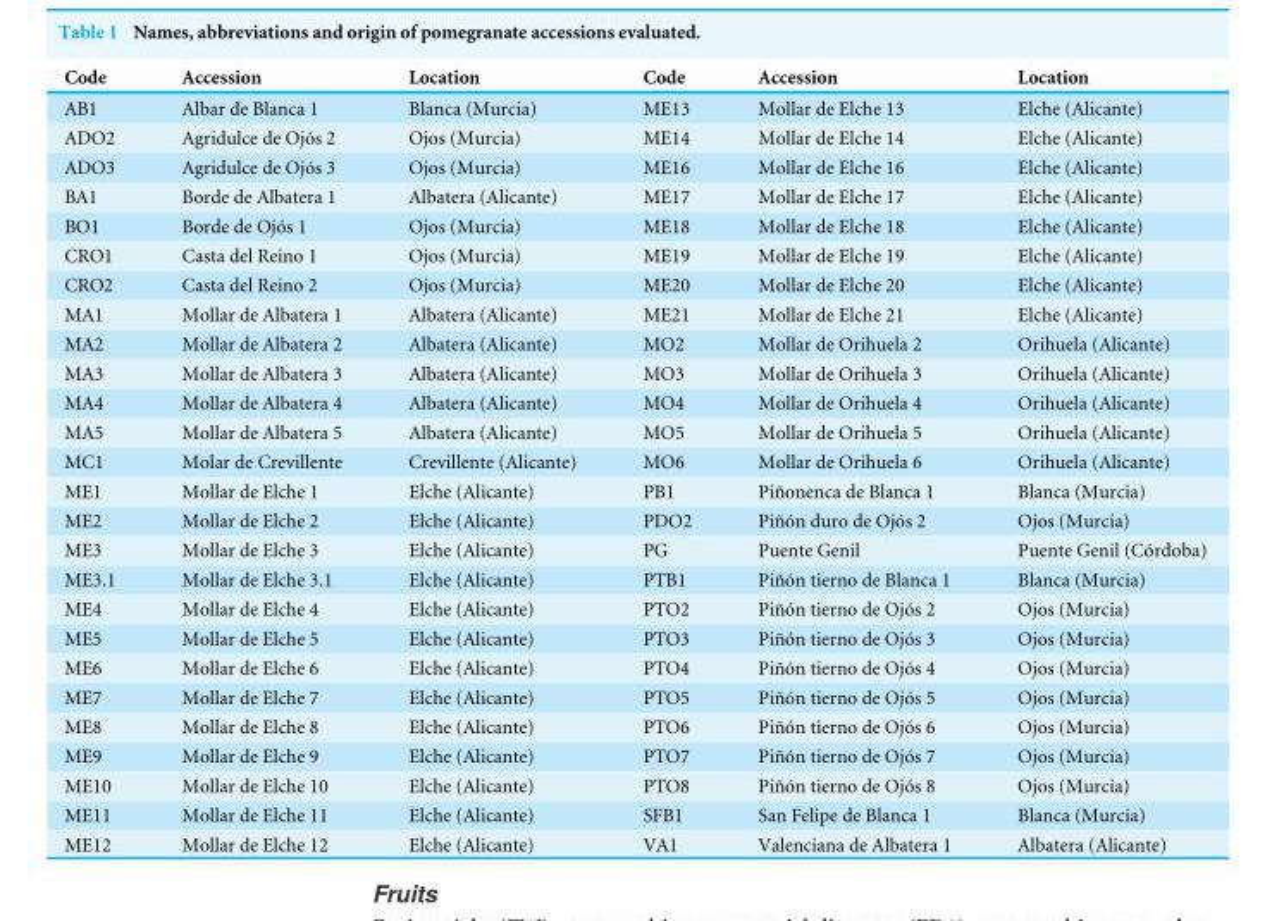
<table><thead><tr><td>Code</td><td>Accession</td><td>Location</td><td>Code</td><td>Accession</td><td>Location</td></tr></thead><tbody><tr><td>AB1</td><td>Albar de Blanca 1</td><td>Blanca (Murcia)</td><td>ME13</td><td>Mollar de Elche 13</td><td>Elche (Alicante)</td></tr><tr><td>ADO2</td><td>Agridulce de Ojós 2</td><td>Ojos (Murcia)</td><td>ME14</td><td>Mollar de Elche 14</td><td>Elche (Alicante)</td></tr><tr><td>ADO3</td><td>Agridulce de Ojós 3</td><td>Ojos (Murcia)</td><td>ME16</td><td>Mollar de Elche 16</td><td>Elche (Alicante)</td></tr><tr><td>BA1</td><td>Borde de Albatera 1</td><td>Albatera (Alicante)</td><td>ME17</td><td>Mollar de Elche 17</td><td>Elche (Alicante)</td></tr><tr><td>BO1</td><td>Borde de Ojós 1</td><td>Ojos (Murcia)</td><td>ME18</td><td>Mollar de Elche 18</td><td>Elche (Alicante)</td></tr><tr><td>CRO1</td><td>Casta del Reino 1</td><td>Ojos (Murcia)</td><td>ME19</td><td>Mollar de Elche 19</td><td>Elche (Alicante)</td></tr><tr><td>CRO2</td><td>Casta del Reino 2</td><td>Ojos (Murcia)</td><td>ME20</td><td>Mollar de Elche 20</td><td>Elche (Alicante)</td></tr><tr><td>MA1</td><td>Mollar de Albatera 1</td><td>Albatera (Alicante)</td><td>ME21</td><td>Mollar de Elche 21</td><td>Elche (Alicante)</td></tr><tr><td>MA2</td><td>Mollar de Albatera 2</td><td>Albatera (Alicante)</td><td>MO2</td><td>Mollar de Orihuela 2</td><td>Orihuela (Alicante)</td></tr><tr><td>MA3</td><td>Mollar de Albatera 3</td><td>Albatera (Alicante)</td><td>MO3</td><td>Mollar de Orihuela 3</td><td>Orihuela (Alicante)</td></tr><tr><td>MA4</td><td>Mollar de Albatera 4</td><td>Albatera (Alicante)</td><td>MO4</td><td>Mollar de Orihuela 4</td><td>Orihuela (Alicante)</td></tr><tr><td>MA5</td><td>Mollar de Albatera 5</td><td>Albatera (Alicante)</td><td>MO5</td><td>Mollar de Orihuela 5</td><td>Orihuela (Alicante)</td></tr><tr><td>MC1</td><td>Molar de Crevillente</td><td>Crevillente (Alicante)</td><td>MO6</td><td>Mollar de Orihuela 6</td><td>Orihuela (Alicante)</td></tr><tr><td>ME1</td><td>Mollar de Elche 1</td><td>Elche (Alicante)</td><td>PB1</td><td>Piñonenca de Blanca 1</td><td>Blanca (Murcia)</td></tr><tr><td>ME2</td><td>Mollar de Elche 2</td><td>Elche (Alicante)</td><td>PDO2</td><td>Piñón duro de Ojós 2</td><td>Ojos (Murcia)</td></tr><tr><td>ME3</td><td>Mollar de Elche 3</td><td>Elche (Alicante)</td><td>PG</td><td>Puente Genil</td><td>Puente Genil (Córdoba)</td></tr><tr><td>ME3.1</td><td>Mollar de Elche 3.1</td><td>Elche (Alicante)</td><td>PTB1</td><td>Piñón tierno de Blanca 1</td><td>Blanca (Murcia)</td></tr><tr><td>ME4</td><td>Mollar de Elche 4</td><td>Elche (Alicante)</td><td>PTO2</td><td>Piñón tierno de Ojós 2</td><td>Ojos (Murcia)</td></tr><tr><td>ME5</td><td>Mollar de Elche 5</td><td>Elche (Alicante)</td><td>PTO3</td><td>Piñón tierno de Ojós 3</td><td>Ojos (Murcia)</td></tr><tr><td>ME6</td><td>Mollar de Elche 6</td><td>Elche (Alicante)</td><td>PTO4</td><td>Piñón tierno de Ojós 4</td><td>Ojos (Murcia)</td></tr><tr><td>ME7</td><td>Mollar de Elche 7</td><td>Elche (Alicante)</td><td>PTO5</td><td>Piñón tierno de Ojós 5</td><td>Ojos (Murcia)</td></tr><tr><td>ME8</td><td>Mollar de Elche 8</td><td>Elche (Alicante)</td><td>PTO6</td><td>Piñón tierno de Ojós 6</td><td>Ojos (Murcia)</td></tr><tr><td>ME9</td><td>Mollar de Elche 9</td><td>Elche (Alicante)</td><td>PTO7</td><td>Piñón tierno de Ojós 7</td><td>Ojos (Murcia)</td></tr><tr><td>ME10</td><td>Mollar de Elche 10</td><td>Elche (Alicante)</td><td>PTO8</td><td>Piñón tierno de Ojós 8</td><td>Ojos (Murcia)</td></tr><tr><td>ME11</td><td>Mollar de Elche 11</td><td>Elche (Alicante)</td><td>SFB1</td><td>San Felipe de Blanca 1</td><td>Blanca (Murcia)</td></tr><tr><td>ME12</td><td>Mollar de Elche 12</td><td>Elche (Alicante)</td><td>VA1</td><td>Valenciana de Albatera 1</td><td>Albatera (Alicante)</td></tr></tbody></table>